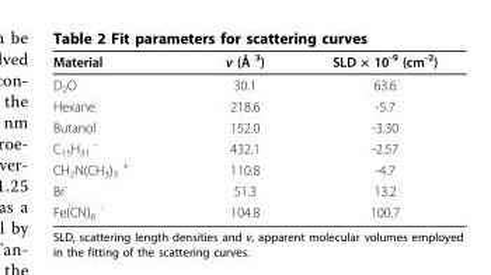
<table><thead><tr><td>Material</td><td>v (Å <sup>3</sup>)</td><td>SLD × 10<sup>-9</sup> (cm<sup>-2</sup>)</td></tr></thead><tbody><tr><td>D<sub>2</sub>O</td><td>30.1</td><td>63.6</td></tr><tr><td>Hexane</td><td>218.6</td><td>-5.7</td></tr><tr><td>Butanol</td><td>152.0</td><td>-3.30</td></tr><tr><td>C<sub>15</sub>H<sub>31</sub> <sup>-</sup></td><td>432.1</td><td>-2.57</td></tr><tr><td>CH<sub>2</sub>N(CH<sub>3</sub>)<sub>3</sub> <sup>+</sup></td><td>110.8</td><td>-4.7</td></tr><tr><td>Br<sup>-</sup></td><td>51.3</td><td>13.2</td></tr><tr><td>Fe(CN)<sub>6</sub> <sup>-</sup></td><td>104.8</td><td>100.7</td></tr></tbody></table>